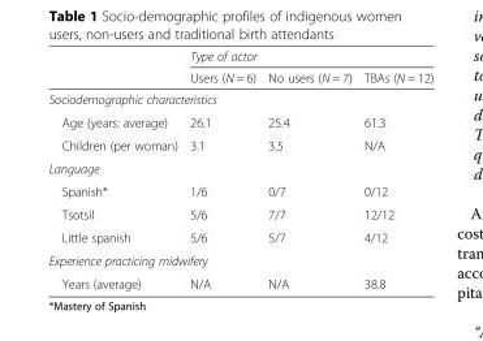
<table><thead><tr><td rowspan="2"></td><td colspan="3">Type of actor</td></tr><tr><td>Users (N = 6)</td><td>No users (N = 7)</td><td>TBAs (N = 12)</td></tr></thead><tbody><tr><td colspan="4">Sociodemographic characteristics</td></tr><tr><td>Age (years: average)</td><td>26.1</td><td>25.4</td><td>61.3</td></tr><tr><td>Children (per woman)</td><td>3.1</td><td>3.5</td><td>N/A</td></tr><tr><td colspan="4">Language</td></tr><tr><td>Spanish*</td><td>1/6</td><td>0/7</td><td>0/12</td></tr><tr><td>Tsotsil</td><td>5/6</td><td>7/7</td><td>12/12</td></tr><tr><td>Little spanish</td><td>5/6</td><td>5/7</td><td>4/12</td></tr><tr><td colspan="4">Experience practicing midwifery</td></tr><tr><td>Years (average)</td><td>N/A</td><td>N/A</td><td>38.8</td></tr></tbody></table>